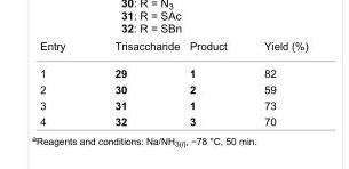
<table><tbody><tr><td>Entry</td><td>Trisaccharide</td><td>Product</td><td>Yield (%)</td></tr><tr><td>1</td><td>29</td><td>1</td><td>82</td></tr><tr><td>2</td><td>30</td><td>2</td><td>59</td></tr><tr><td>3</td><td>31</td><td>1</td><td>73</td></tr><tr><td>4</td><td>32</td><td>3</td><td>70</td></tr></tbody></table>